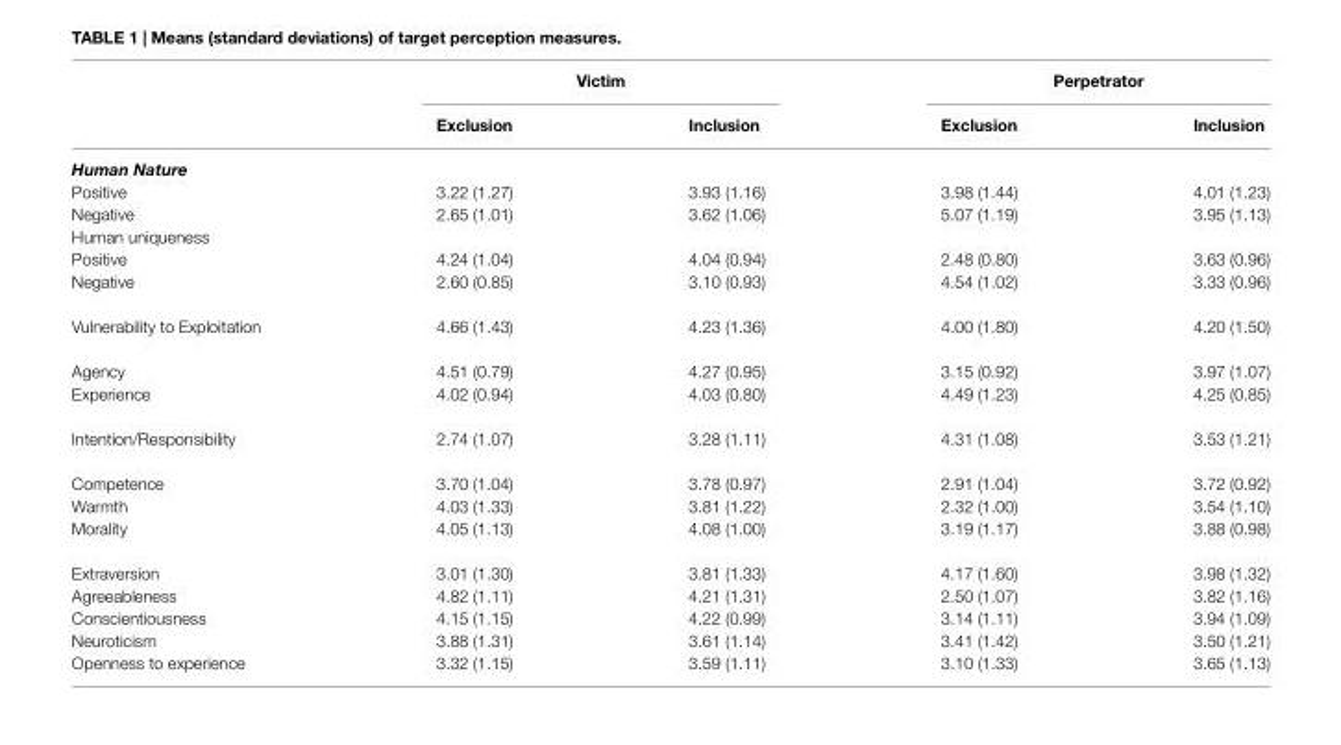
<table><thead><tr><td rowspan="2"></td><td colspan="2">Victim</td><td colspan="2">Perpetrator</td></tr><tr><td>Exclusion</td><td>Inclusion</td><td>Exclusion</td><td>Inclusion</td></tr></thead><tbody><tr><td colspan="5">Human Nature</td></tr><tr><td>Positive</td><td>3.22 (1.27)</td><td>3.93 (1.16)</td><td>3.98 (1.44)</td><td>4.01 (1.23)</td></tr><tr><td>Negative</td><td>2.65 (1.01)</td><td>3.62 (1.06)</td><td>5.07 (1.19)</td><td>3.95 (1.13)</td></tr><tr><td colspan="5">Human uniqueness</td></tr><tr><td>Positive</td><td>4.24 (1.04)</td><td>4.04 (0.94)</td><td>2.48 (0.80)</td><td>3.63 (0.96)</td></tr><tr><td>Negative</td><td>2.60 (0.85)</td><td>3.10 (0.93)</td><td>4.54 (1.02)</td><td>3.33 (0.96)</td></tr><tr><td>Vulnerability to Exploitation</td><td>4.66 (1.43)</td><td>4.23 (1.36)</td><td>4.00 (1.80)</td><td>4.20 (1.50)</td></tr><tr><td>Agency</td><td>4.51 (0.79)</td><td>4.27 (0.95)</td><td>3.15 (0.92)</td><td>3.97 (1.07)</td></tr><tr><td>Experience</td><td>4.02 (0.94)</td><td>4.03 (0.80)</td><td>4.49 (1.23)</td><td>4.25 (0.85)</td></tr><tr><td>Intention/Responsibility</td><td>2.74 (1.07)</td><td>3.28 (1.11)</td><td>4.31 (1.08)</td><td>3.53 (1.21)</td></tr><tr><td>Competence</td><td>3.70 (1.04)</td><td>3.78 (0.97)</td><td>2.91 (1.04)</td><td>3.72 (0.92)</td></tr><tr><td>Warmth</td><td>4.03 (1.33)</td><td>3.81 (1.22)</td><td>2.32 (1.00)</td><td>3.54 (1.10)</td></tr><tr><td>Morality</td><td>4.05 (1.13)</td><td>4.08 (1.00)</td><td>3.19 (1.17)</td><td>3.88 (0.98)</td></tr><tr><td>Extraversion</td><td>3.01 (1.30)</td><td>3.81 (1.33)</td><td>4.17 (1.60)</td><td>3.98 (1.32)</td></tr><tr><td>Agreeableness</td><td>4.82 (1.11)</td><td>4.21 (1.31)</td><td>2.50 (1.07)</td><td>3.82 (1.16)</td></tr><tr><td>Conscientiousness</td><td>4.15 (1.15)</td><td>4.22 (0.99)</td><td>3.14 (1.11)</td><td>3.94 (1.09)</td></tr><tr><td>Neuroticism</td><td>3.88 (1.31)</td><td>3.61 (1.14)</td><td>3.41 (1.42)</td><td>3.50 (1.21)</td></tr><tr><td>Openness to experience</td><td>3.32 (1.15)</td><td>3.59 (1.11)</td><td>3.10 (1.33)</td><td>3.65 (1.13)</td></tr></tbody></table>